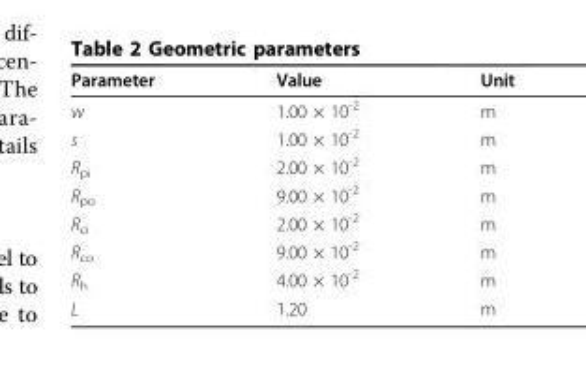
<table><thead><tr><td>Parameter</td><td>Value</td><td>Unit</td></tr></thead><tbody><tr><td>w</td><td>1.00 × 10<sup>-2</sup></td><td>m</td></tr><tr><td>s</td><td>1.00 × 10<sup>-2</sup></td><td>m</td></tr><tr><td>R<sub>pi</sub></td><td>2.00 × 10<sup>-2</sup></td><td>m</td></tr><tr><td>R<sub>po</sub></td><td>9.00 × 10<sup>-2</sup></td><td>m</td></tr><tr><td>R<sub>ci</sub></td><td>2.00 × 10<sup>-2</sup></td><td>m</td></tr><tr><td>R<sub>co</sub></td><td>9.00 × 10<sup>-2</sup></td><td>m</td></tr><tr><td>R<sub>h</sub></td><td>4.00 × 10<sup>-2</sup></td><td>m</td></tr><tr><td>L</td><td>1.20</td><td>m</td></tr></tbody></table>